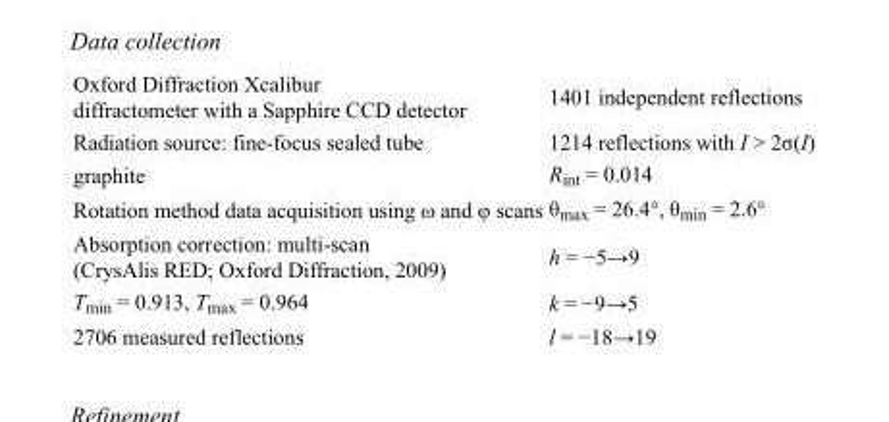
<table><tbody><tr><td>Oxford Diffraction Xcalibur diffractometer with a Sapphire CCD detector</td><td>1401 independent reflections</td></tr><tr><td>Radiation source: fine-focus sealed tube</td><td>1214 reflections with I &gt; 2σ(I)</td></tr><tr><td>graphite</td><td>R<sub>int</sub> = 0.014</td></tr><tr><td>Rotation method data acquisition using ω and φ scans</td><td>θ<sub>max</sub> = 26.4°, θ<sub>min</sub> = 2.6°</td></tr><tr><td>Absorption correction: multi-scan (CrysAlis RED; Oxford Diffraction, 2009)</td><td>h = −5→9</td></tr><tr><td>T<sub>min</sub> = 0.913, T<sub>max</sub> = 0.964</td><td>k = −9→5</td></tr><tr><td>2706 measured reflections</td><td>l = −18→19</td></tr></tbody></table>